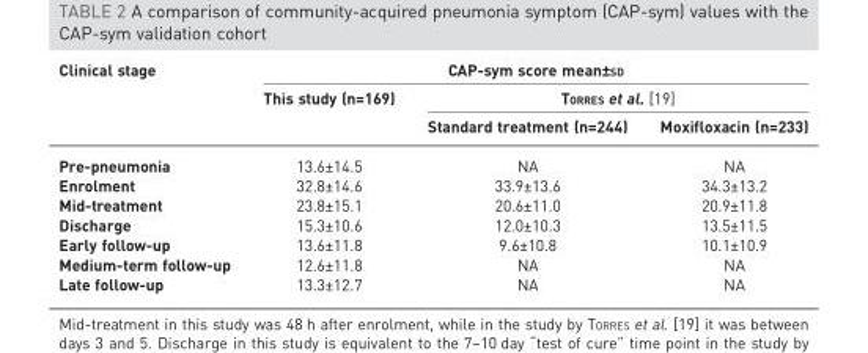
<table><thead><tr><td rowspan="3">Clinical stage</td><td colspan="3">CAP-sym score mean±SD</td></tr><tr><td rowspan="2">This study (n=169)</td><td colspan="2">TORRES et al. [19]</td></tr><tr><td>Standard treatment (n=244)</td><td>Moxifloxacin (n=233)</td></tr></thead><tbody><tr><td>Pre-pneumonia</td><td>13.6±14.5</td><td>NA</td><td>NA</td></tr><tr><td>Enrolment</td><td>32.8±14.6</td><td>33.9±13.6</td><td>34.3±13.2</td></tr><tr><td>Mid-treatment</td><td>23.8±15.1</td><td>20.6±11.0</td><td>20.9±11.8</td></tr><tr><td>Discharge</td><td>15.3±10.6</td><td>12.0±10.3</td><td>13.5±11.5</td></tr><tr><td>Early follow-up</td><td>13.6±11.8</td><td>9.6±10.8</td><td>10.1±10.9</td></tr><tr><td>Medium-term follow-up</td><td>12.6±11.8</td><td>NA</td><td>NA</td></tr><tr><td>Late follow-up</td><td>13.3±12.7</td><td>NA</td><td>NA</td></tr></tbody></table>